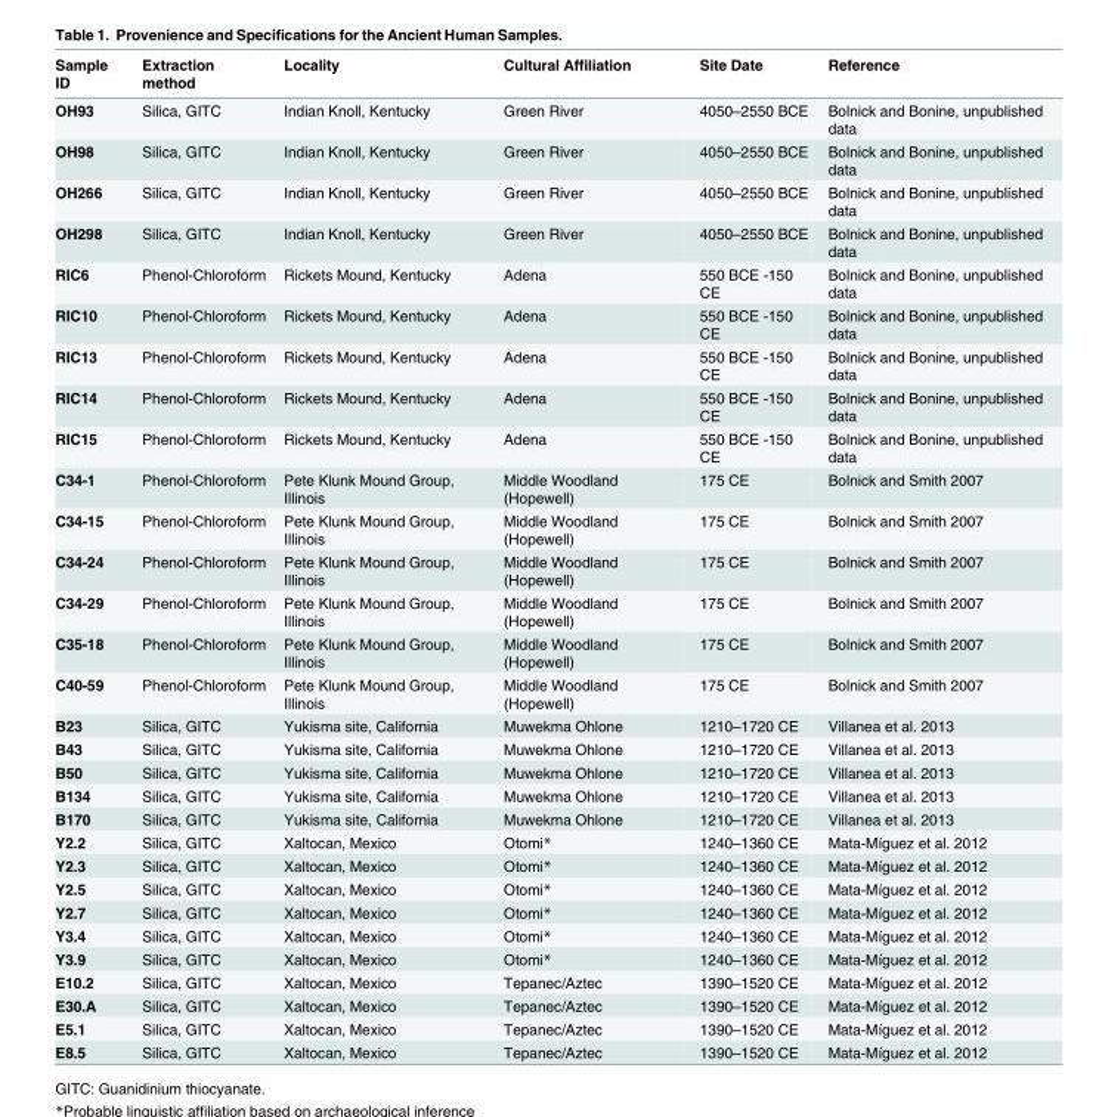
<table><thead><tr><td>Sample ID</td><td>Extraction method</td><td>Locality</td><td>Cultural Affiliation</td><td>Site Date</td><td>Reference</td></tr></thead><tbody><tr><td>OH93</td><td>Silica, GITC</td><td>Indian Knoll, Kentucky</td><td>Green River</td><td>4050–2550 BCE</td><td>Bolnick and Bonine, unpublished data</td></tr><tr><td>OH98</td><td>Silica, GITC</td><td>Indian Knoll, Kentucky</td><td>Green River</td><td>4050–2550 BCE</td><td>Bolnick and Bonine, unpublished data</td></tr><tr><td>OH266</td><td>Silica, GITC</td><td>Indian Knoll, Kentucky</td><td>Green River</td><td>4050–2550 BCE</td><td>Bolnick and Bonine, unpublished data</td></tr><tr><td>OH298</td><td>Silica, GITC</td><td>Indian Knoll, Kentucky</td><td>Green River</td><td>4050–2550 BCE</td><td>Bolnick and Bonine, unpublished data</td></tr><tr><td>RIC6</td><td>Phenol-Chloroform</td><td>Rickets Mound, Kentucky</td><td>Adena</td><td>550 BCE -150 CE</td><td>Bolnick and Bonine, unpublished data</td></tr><tr><td>RIC10</td><td>Phenol-Chloroform</td><td>Rickets Mound, Kentucky</td><td>Adena</td><td>550 BCE -150 CE</td><td>Bolnick and Bonine, unpublished data</td></tr><tr><td>RIC13</td><td>Phenol-Chloroform</td><td>Rickets Mound, Kentucky</td><td>Adena</td><td>550 BCE -150 CE</td><td>Bolnick and Bonine, unpublished data</td></tr><tr><td>RIC14</td><td>Phenol-Chloroform</td><td>Rickets Mound, Kentucky</td><td>Adena</td><td>550 BCE -150 CE</td><td>Bolnick and Bonine, unpublished data</td></tr><tr><td>RIC15</td><td>Phenol-Chloroform</td><td>Rickets Mound, Kentucky</td><td>Adena</td><td>550 BCE -150 CE</td><td>Bolnick and Bonine, unpublished data</td></tr><tr><td>C34-1</td><td>Phenol-Chloroform</td><td>Pete Klunk Mound Group, Illinois</td><td>Middle Woodland (Hopewell)</td><td>175 CE</td><td>Bolnick and Smith 2007</td></tr><tr><td>C34-15</td><td>Phenol-Chloroform</td><td>Pete Klunk Mound Group, Illinois</td><td>Middle Woodland (Hopewell)</td><td>175 CE</td><td>Bolnick and Smith 2007</td></tr><tr><td>C34-24</td><td>Phenol-Chloroform</td><td>Pete Klunk Mound Group, Illinois</td><td>Middle Woodland (Hopewell)</td><td>175 CE</td><td>Bolnick and Smith 2007</td></tr><tr><td>C34-29</td><td>Phenol-Chloroform</td><td>Pete Klunk Mound Group, Illinois</td><td>Middle Woodland (Hopewell)</td><td>175 CE</td><td>Bolnick and Smith 2007</td></tr><tr><td>C35-18</td><td>Phenol-Chloroform</td><td>Pete Klunk Mound Group, Illinois</td><td>Middle Woodland (Hopewell)</td><td>175 CE</td><td>Bolnick and Smith 2007</td></tr><tr><td>C40-59</td><td>Phenol-Chloroform</td><td>Pete Klunk Mound Group, Illinois</td><td>Middle Woodland (Hopewell)</td><td>175 CE</td><td>Bolnick and Smith 2007</td></tr><tr><td>B23</td><td>Silica, GITC</td><td>Yukisma site, California</td><td>Muwekma Ohlone</td><td>1210–1720 CE</td><td>Villanea et al. 2013</td></tr><tr><td>B43</td><td>Silica, GITC</td><td>Yukisma site, California</td><td>Muwekma Ohlone</td><td>1210–1720 CE</td><td>Villanea et al. 2013</td></tr><tr><td>B50</td><td>Silica, GITC</td><td>Yukisma site, California</td><td>Muwekma Ohlone</td><td>1210–1720 CE</td><td>Villanea et al. 2013</td></tr><tr><td>B134</td><td>Silica, GITC</td><td>Yukisma site, California</td><td>Muwekma Ohlone</td><td>1210–1720 CE</td><td>Villanea et al. 2013</td></tr><tr><td>B170</td><td>Silica, GITC</td><td>Yukisma site, California</td><td>Muwekma Ohlone</td><td>1210–1720 CE</td><td>Villanea et al. 2013</td></tr><tr><td>Y2.2</td><td>Silica, GITC</td><td>Xaltocan, Mexico</td><td>Otomi*</td><td>1240–1360 CE</td><td>Mata-Míguez et al. 2012</td></tr><tr><td>Y2.3</td><td>Silica, GITC</td><td>Xaltocan, Mexico</td><td>Otomi*</td><td>1240–1360 CE</td><td>Mata-Míguez et al. 2012</td></tr><tr><td>Y2.5</td><td>Silica, GITC</td><td>Xaltocan, Mexico</td><td>Otomi*</td><td>1240–1360 CE</td><td>Mata-Míguez et al. 2012</td></tr><tr><td>Y2.7</td><td>Silica, GITC</td><td>Xaltocan, Mexico</td><td>Otomi*</td><td>1240–1360 CE</td><td>Mata-Míguez et al. 2012</td></tr><tr><td>Y3.4</td><td>Silica, GITC</td><td>Xaltocan, Mexico</td><td>Otomi*</td><td>1240–1360 CE</td><td>Mata-Míguez et al. 2012</td></tr><tr><td>Y3.9</td><td>Silica, GITC</td><td>Xaltocan, Mexico</td><td>Otomi*</td><td>1240–1360 CE</td><td>Mata-Míguez et al. 2012</td></tr><tr><td>E10.2</td><td>Silica, GITC</td><td>Xaltocan, Mexico</td><td>Tepanec/Aztec</td><td>1390–1520 CE</td><td>Mata-Míguez et al. 2012</td></tr><tr><td>E30.A</td><td>Silica, GITC</td><td>Xaltocan, Mexico</td><td>Tepanec/Aztec</td><td>1390–1520 CE</td><td>Mata-Míguez et al. 2012</td></tr><tr><td>E5.1</td><td>Silica, GITC</td><td>Xaltocan, Mexico</td><td>Tepanec/Aztec</td><td>1390–1520 CE</td><td>Mata-Míguez et al. 2012</td></tr><tr><td>E8.5</td><td>Silica, GITC</td><td>Xaltocan, Mexico</td><td>Tepanec/Aztec</td><td>1390–1520 CE</td><td>Mata-Míguez et al. 2012</td></tr></tbody></table>